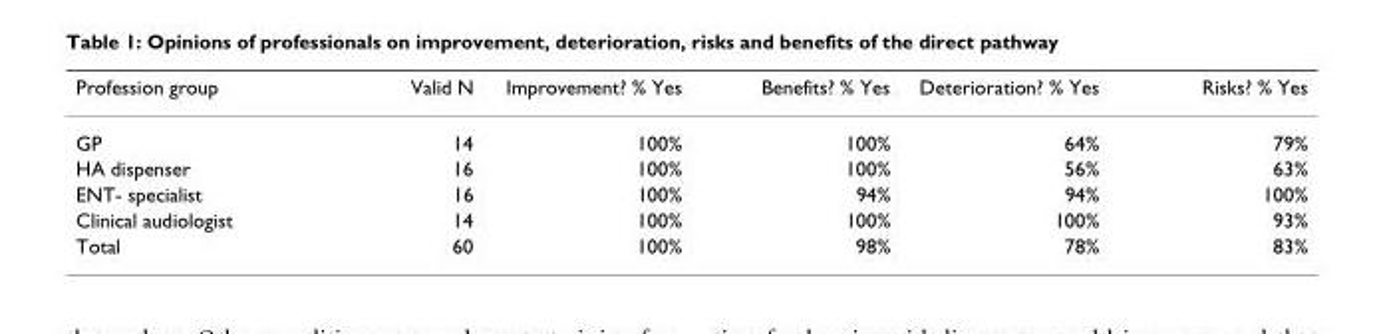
<table><thead><tr><td>Profession group</td><td>Valid N</td><td>Improvement? % Yes</td><td>Benefits? % Yes</td><td>Deterioration? % Yes</td><td>Risks? % Yes</td></tr></thead><tbody><tr><td>GP</td><td>14</td><td>100%</td><td>100%</td><td>64%</td><td>79%</td></tr><tr><td>HA dispenser</td><td>16</td><td>100%</td><td>100%</td><td>56%</td><td>63%</td></tr><tr><td>ENT- specialist</td><td>16</td><td>100%</td><td>94%</td><td>94%</td><td>100%</td></tr><tr><td>Clinical audiologist</td><td>14</td><td>100%</td><td>100%</td><td>100%</td><td>93%</td></tr><tr><td>Total</td><td>60</td><td>100%</td><td>98%</td><td>78%</td><td>83%</td></tr></tbody></table>